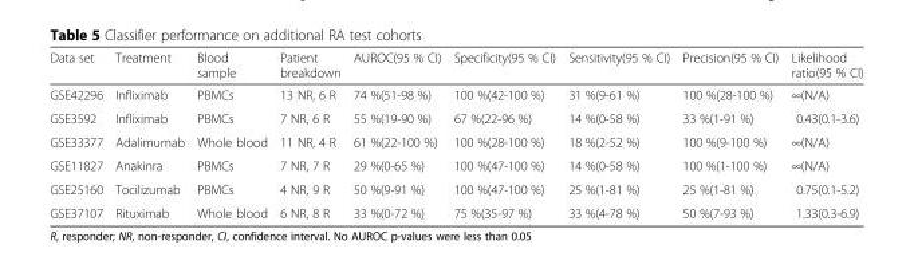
<table><thead><tr><td>Data set</td><td>Treatment</td><td>Blood sample</td><td>Patient breakdown</td><td>AUROC(95 % CI)</td><td>Specificity(95 % CI)</td><td>Sensitivity(95 % CI)</td><td>Precision(95 % CI)</td><td>Likelihood ratio(95 % CI)</td></tr></thead><tbody><tr><td>GSE42296</td><td>Infliximab</td><td>PBMCs</td><td>13 NR, 6 R</td><td>74 %(51-98 %)</td><td>100 %(42-100 %)</td><td>31 %(9-61 %)</td><td>100 %(28-100 %)</td><td>∞(N/A)</td></tr><tr><td>GSE3592</td><td>Infliximab</td><td>PBMCs</td><td>7 NR, 6 R</td><td>55 %(19-90 %)</td><td>67 %(22-96 %)</td><td>14 %(0-58 %)</td><td>33 %(1-91 %)</td><td>0.43(0.1-3.6)</td></tr><tr><td>GSE33377</td><td>Adalimumab</td><td>Whole blood</td><td>11 NR, 4 R</td><td>61 %(22-100 %)</td><td>100 %(28-100 %)</td><td>18 %(2-52 %)</td><td>100 %(9-100 %)</td><td>∞(N/A)</td></tr><tr><td>GSE11827</td><td>Anakinra</td><td>PBMCs</td><td>7 NR, 7 R</td><td>29 %(0-65 %)</td><td>100 %(47-100 %)</td><td>14 %(0-58 %)</td><td>100 %(1-100 %)</td><td>∞(N/A)</td></tr><tr><td>GSE25160</td><td>Tocilizumab</td><td>PBMCs</td><td>4 NR, 9 R</td><td>50 %(9-91 %)</td><td>100 %(47-100 %)</td><td>25 %(1-81 %)</td><td>25 %(1-81 %)</td><td>0.75(0.1-5.2)</td></tr><tr><td>GSE37107</td><td>Rituximab</td><td>Whole blood</td><td>6 NR, 8 R</td><td>33 %(0-72 %)</td><td>75 %(35-97 %)</td><td>33 %(4-78 %)</td><td>50 %(7-93 %)</td><td>1.33(0.3-6.9)</td></tr></tbody></table>